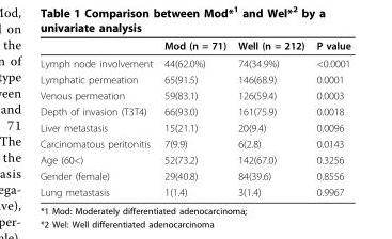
<table><thead><tr><td></td><td>Mod (n = 71)</td><td>Well (n = 212)</td><td>P value</td></tr></thead><tbody><tr><td>Lymph node involvement</td><td>44(62.0%)</td><td>74(34.9%)</td><td>&lt;0.0001</td></tr><tr><td>Lymphatic permeation</td><td>65(91.5)</td><td>146(68.9)</td><td>0.0001</td></tr><tr><td>Venous permeation</td><td>59(83.1)</td><td>126(59.4)</td><td>0.0003</td></tr><tr><td>Depth of invasion (T3T4)</td><td>66(93.0)</td><td>161(75.9)</td><td>0.0018</td></tr><tr><td>Liver metastasis</td><td>15(21.1)</td><td>20(9.4)</td><td>0.0096</td></tr><tr><td>Carcinomatous peritonitis</td><td>7(9.9)</td><td>6(2.8)</td><td>0.0143</td></tr><tr><td>Age (60&lt;)</td><td>52(73.2)</td><td>142(67.0)</td><td>0.3256</td></tr><tr><td>Gender (female)</td><td>29(40.8)</td><td>84(39.6)</td><td>0.8556</td></tr><tr><td>Lung metastasis</td><td>1(1.4)</td><td>3(1.4)</td><td>0.9967</td></tr></tbody></table>